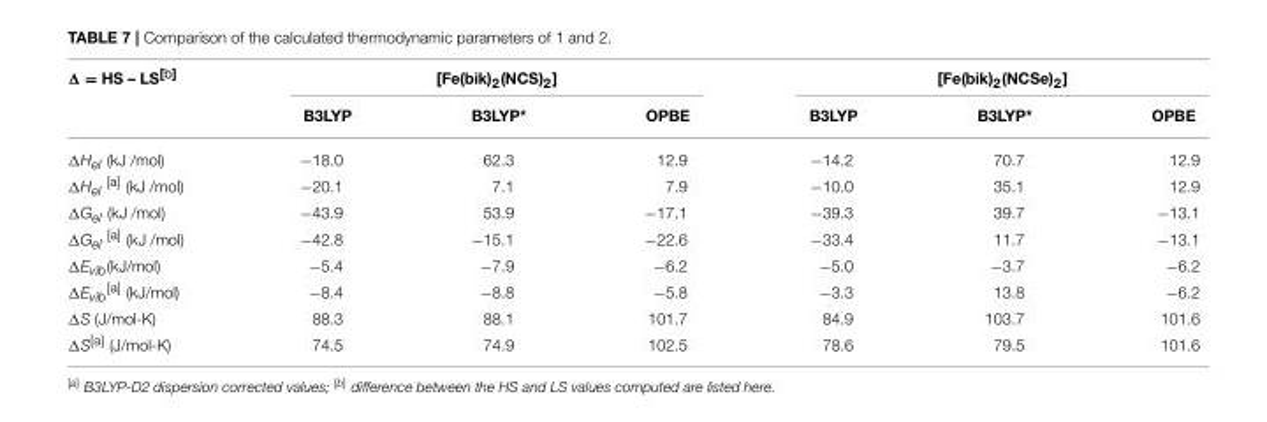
<table><thead><tr><td rowspan="2">Δ = HS – LS<sup>[b]</sup></td><td colspan="3">[Fe(bik)<sub>2</sub>(NCS)<sub>2</sub>]</td><td colspan="3">[Fe(bik)<sub>2</sub>(NCSe)<sub>2</sub>]</td></tr><tr><td>B3LYP</td><td>B3LYP*</td><td>OPBE</td><td>B3LYP</td><td>B3LYP*</td><td>OPBE</td></tr></thead><tbody><tr><td>ΔHel (kJ /mol)</td><td>−18.0</td><td>62.3</td><td>12.9</td><td>−14.2</td><td>70.7</td><td>12.9</td></tr><tr><td>ΔHel [a] (kJ /mol)</td><td>−20.1</td><td>7.1</td><td>7.9</td><td>−10.0</td><td>35.1</td><td>12.9</td></tr><tr><td>ΔGel (kJ /mol)</td><td>−43.9</td><td>53.9</td><td>−17.1</td><td>−39.3</td><td>39.7</td><td>−13.1</td></tr><tr><td>ΔGel [a] (kJ /mol)</td><td>−42.8</td><td>−15.1</td><td>−22.6</td><td>−33.4</td><td>11.7</td><td>−13.1</td></tr><tr><td>ΔEvib(kJ/mol)</td><td>−5.4</td><td>−7.9</td><td>−6.2</td><td>−5.0</td><td>−3.7</td><td>−6.2</td></tr><tr><td>ΔEvib[a] (kJ/mol)</td><td>−8.4</td><td>−8.8</td><td>−5.8</td><td>−3.3</td><td>13.8</td><td>−6.2</td></tr><tr><td>ΔS (J/mol-K)</td><td>88.3</td><td>88.1</td><td>101.7</td><td>84.9</td><td>103.7</td><td>101.6</td></tr><tr><td>ΔS<sup>[a]</sup> (J/mol-K)</td><td>74.5</td><td>74.9</td><td>102.5</td><td>78.6</td><td>79.5</td><td>101.6</td></tr></tbody></table>